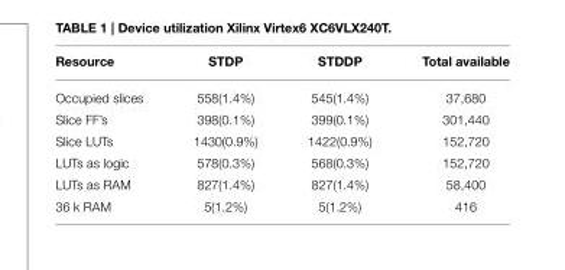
<table><thead><tr><td>Resource</td><td>STDP</td><td>STDDP</td><td>Total available</td></tr></thead><tbody><tr><td>Occupied slices</td><td>558(1.4%)</td><td>545(1.4%)</td><td>37,680</td></tr><tr><td>Slice FF’s</td><td>398(0.1%)</td><td>399(0.1%)</td><td>301,440</td></tr><tr><td>Slice LUTs</td><td>1430(0.9%)</td><td>1422(0.9%)</td><td>152,720</td></tr><tr><td>LUTs as logic</td><td>578(0.3%)</td><td>568(0.3%)</td><td>152,720</td></tr><tr><td>LUTs as RAM</td><td>827(1.4%)</td><td>827(1.4%)</td><td>58,400</td></tr><tr><td>36 k RAM</td><td>5(1.2%)</td><td>5(1.2%)</td><td>416</td></tr></tbody></table>